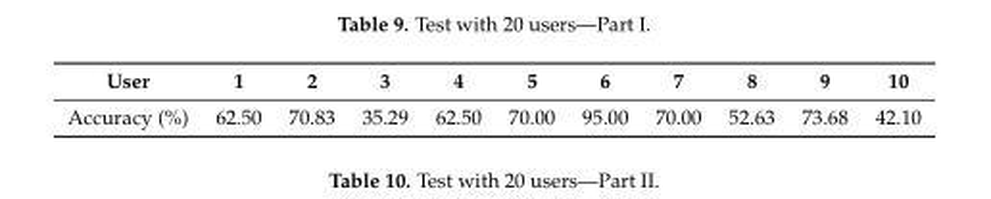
<table><thead><tr><td>User</td><td>1</td><td>2</td><td>3</td><td>4</td><td>5</td><td>6</td><td>7</td><td>8</td><td>9</td><td>10</td></tr></thead><tbody><tr><td>Accuracy (%)</td><td>62.50</td><td>70.83</td><td>35.29</td><td>62.50</td><td>70.00</td><td>95.00</td><td>70.00</td><td>52.63</td><td>73.68</td><td>42.10</td></tr></tbody></table>